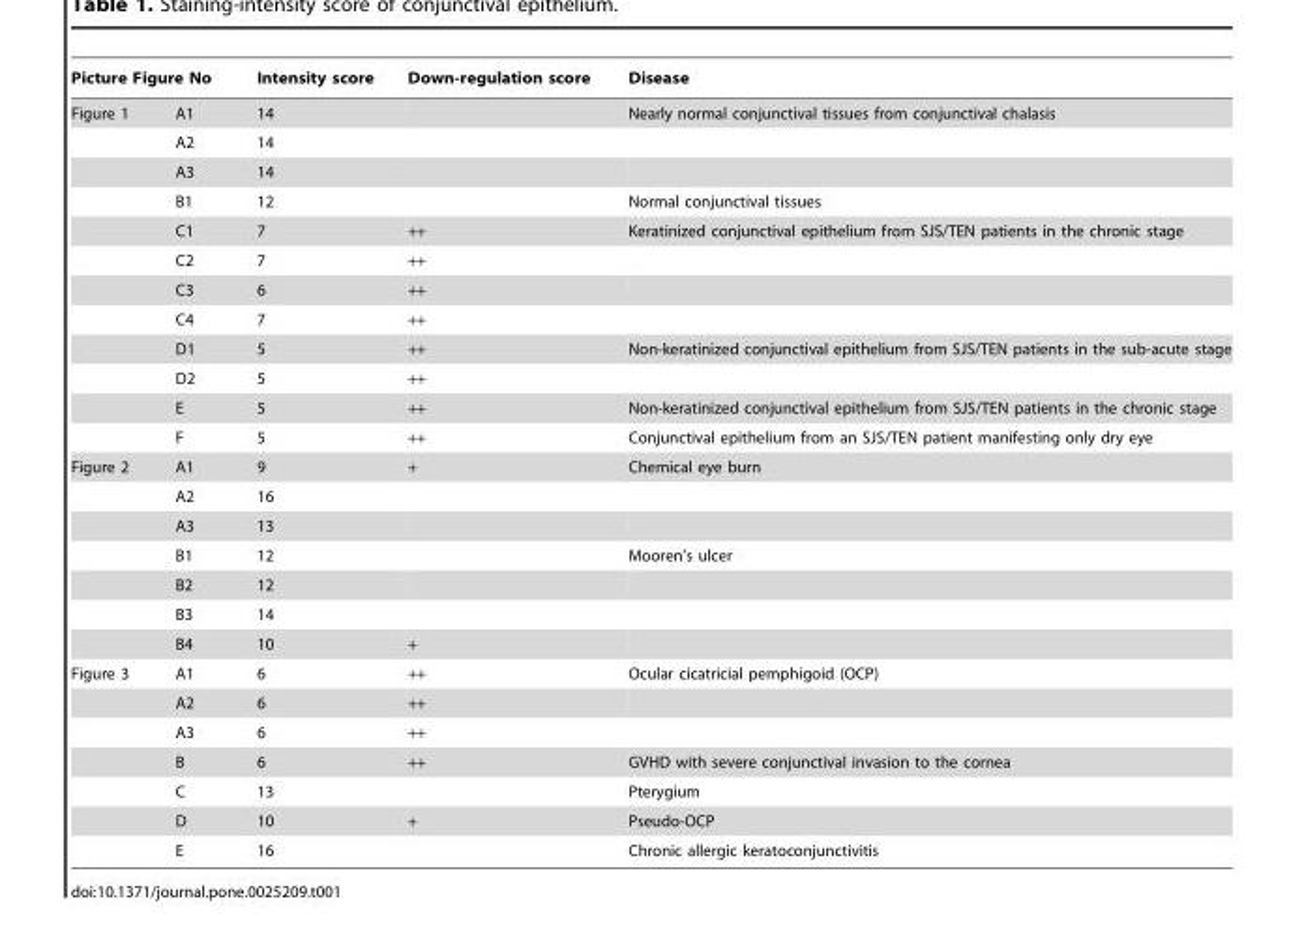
<table><thead><tr><td colspan="2">Picture Figure No</td><td rowspan="2">Intensity score 14</td><td rowspan="2">Down-regulation score</td><td rowspan="2">Disease Nearly normal conjunctival tissues from conjunctival chalasis</td></tr><tr><td>Figure 1</td><td>A1</td></tr></thead><tbody><tr><td></td><td>A2</td><td>14</td><td></td><td></td></tr><tr><td></td><td>A3</td><td>14</td><td></td><td></td></tr><tr><td></td><td>B1</td><td>12</td><td></td><td>Normal conjunctival tissues</td></tr><tr><td></td><td>C1</td><td>7</td><td>++</td><td>Keratinized conjunctival epithelium from SJS/TEN patients in the chronic stage</td></tr><tr><td></td><td>C2</td><td>7</td><td>++</td><td></td></tr><tr><td></td><td>C3</td><td>6</td><td>++</td><td></td></tr><tr><td></td><td>C4</td><td>7</td><td>++</td><td></td></tr><tr><td></td><td>D1</td><td>5</td><td>++</td><td>Non-keratinized conjunctival epithelium from SJS/TEN patients in the sub-acute stage</td></tr><tr><td></td><td>D2</td><td>5</td><td>++</td><td></td></tr><tr><td></td><td>E</td><td>5</td><td>++</td><td>Non-keratinized conjunctival epithelium from SJS/TEN patients in the chronic stage</td></tr><tr><td></td><td>F</td><td>5</td><td>++</td><td>Conjunctival epithelium from an SJS/TEN patient manifesting only dry eye</td></tr><tr><td rowspan="7">Figure 2</td><td>A1</td><td>9</td><td>+</td><td>Chemical eye burn</td></tr><tr><td>A2</td><td>16</td><td></td><td></td></tr><tr><td>A3</td><td>13</td><td></td><td></td></tr><tr><td>B1</td><td>12</td><td></td><td>Mooren’s ulcer</td></tr><tr><td>B2</td><td>12</td><td></td><td></td></tr><tr><td>B3</td><td>14</td><td></td><td></td></tr><tr><td>B4</td><td>10</td><td>+</td><td></td></tr><tr><td rowspan="7">Figure 3</td><td>A1</td><td>6</td><td>++</td><td>Ocular cicatricial pemphigoid (OCP)</td></tr><tr><td>A2</td><td>6</td><td>++</td><td></td></tr><tr><td>A3</td><td>6</td><td>++</td><td></td></tr><tr><td>B</td><td>6</td><td>++</td><td>GVHD with severe conjunctival invasion to the cornea</td></tr><tr><td>C</td><td>13</td><td></td><td>Pterygium</td></tr><tr><td>D</td><td>10</td><td>+</td><td>Pseudo-OCP</td></tr><tr><td>E</td><td>16</td><td></td><td>Chronic allergic keratoconjunctivitis</td></tr></tbody></table>